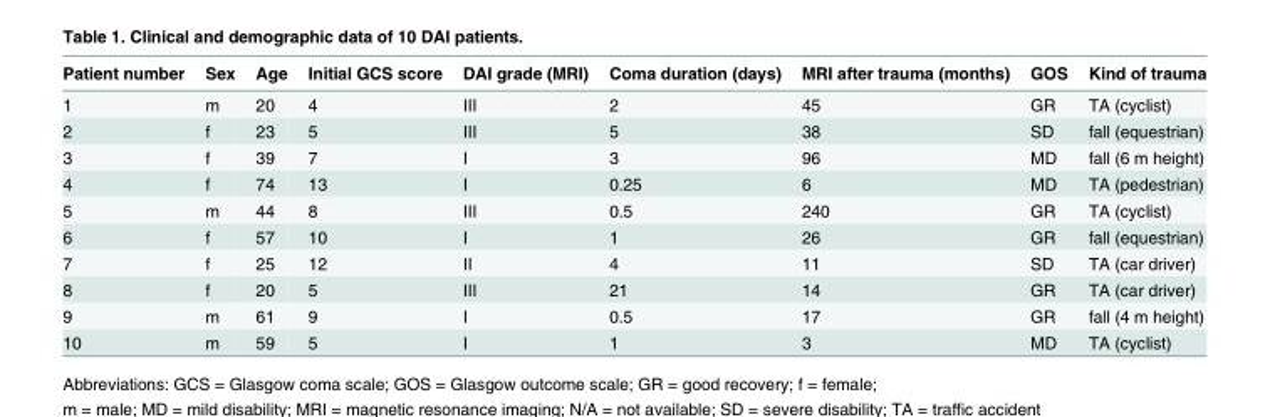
<table><thead><tr><td>Patient number</td><td>Sex</td><td>Age</td><td>Initial GCS score</td><td>DAI grade (MRI)</td><td>Coma duration (days)</td><td>MRI after trauma (months)</td><td>GOS</td><td>Kind of trauma</td></tr></thead><tbody><tr><td>1</td><td>m</td><td>20</td><td>4</td><td>III</td><td>2</td><td>45</td><td>GR</td><td>TA (cyclist)</td></tr><tr><td>2</td><td>f</td><td>23</td><td>5</td><td>III</td><td>5</td><td>38</td><td>SD</td><td>fall (equestrian)</td></tr><tr><td>3</td><td>f</td><td>39</td><td>7</td><td>I</td><td>3</td><td>96</td><td>MD</td><td>fall (6 m height)</td></tr><tr><td>4</td><td>f</td><td>74</td><td>13</td><td>I</td><td>0.25</td><td>6</td><td>MD</td><td>TA (pedestrian)</td></tr><tr><td>5</td><td>m</td><td>44</td><td>8</td><td>III</td><td>0.5</td><td>240</td><td>GR</td><td>TA (cyclist)</td></tr><tr><td>6</td><td>f</td><td>57</td><td>10</td><td>I</td><td>1</td><td>26</td><td>GR</td><td>fall (equestrian)</td></tr><tr><td>7</td><td>f</td><td>25</td><td>12</td><td>II</td><td>4</td><td>11</td><td>SD</td><td>TA (car driver)</td></tr><tr><td>8</td><td>f</td><td>20</td><td>5</td><td>III</td><td>21</td><td>14</td><td>GR</td><td>TA (car driver)</td></tr><tr><td>9</td><td>m</td><td>61</td><td>9</td><td>I</td><td>0.5</td><td>17</td><td>GR</td><td>fall (4 m height)</td></tr><tr><td>10</td><td>m</td><td>59</td><td>5</td><td>I</td><td>1</td><td>3</td><td>MD</td><td>TA (cyclist)</td></tr></tbody></table>